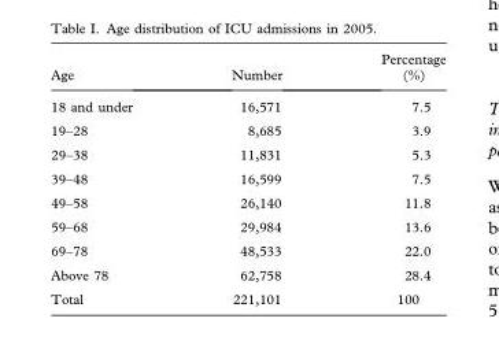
<table><thead><tr><td>Age</td><td>Number</td><td>Percentage (%)</td></tr></thead><tbody><tr><td>18 and under</td><td>16,571</td><td>7.5</td></tr><tr><td>19–28</td><td>8,685</td><td>3.9</td></tr><tr><td>29–38</td><td>11,831</td><td>5.3</td></tr><tr><td>39–48</td><td>16,599</td><td>7.5</td></tr><tr><td>49–58</td><td>26,140</td><td>11.8</td></tr><tr><td>59–68</td><td>29,984</td><td>13.6</td></tr><tr><td>69–78</td><td>48,533</td><td>22.0</td></tr><tr><td>Above 78</td><td>62,758</td><td>28.4</td></tr><tr><td>Total</td><td>221,101</td><td>100</td></tr></tbody></table>